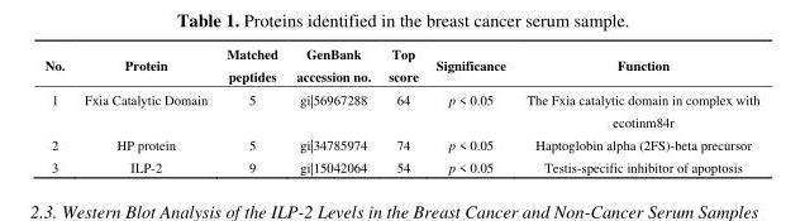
<table><thead><tr><td>No.</td><td>Protein</td><td>Matched peptides</td><td>GenBank accession no.</td><td>Top score</td><td>Significance</td><td>Function</td></tr></thead><tbody><tr><td>1</td><td>Fxia Catalytic Domain</td><td>5</td><td>gi|56967288</td><td>64</td><td>p &lt; 0.05</td><td>The Fxia catalytic domain in complex with ecotinm84r</td></tr><tr><td>2</td><td>HP protein</td><td>5</td><td>gi|34785974</td><td>74</td><td>p &lt; 0.05</td><td>Haptoglobin alpha (2FS)-beta precursor</td></tr><tr><td>3</td><td>ILP-2</td><td>9</td><td>gi|15042064</td><td>54</td><td>p &lt; 0.05</td><td>Testis-specific inhibitor of apoptosis</td></tr></tbody></table>